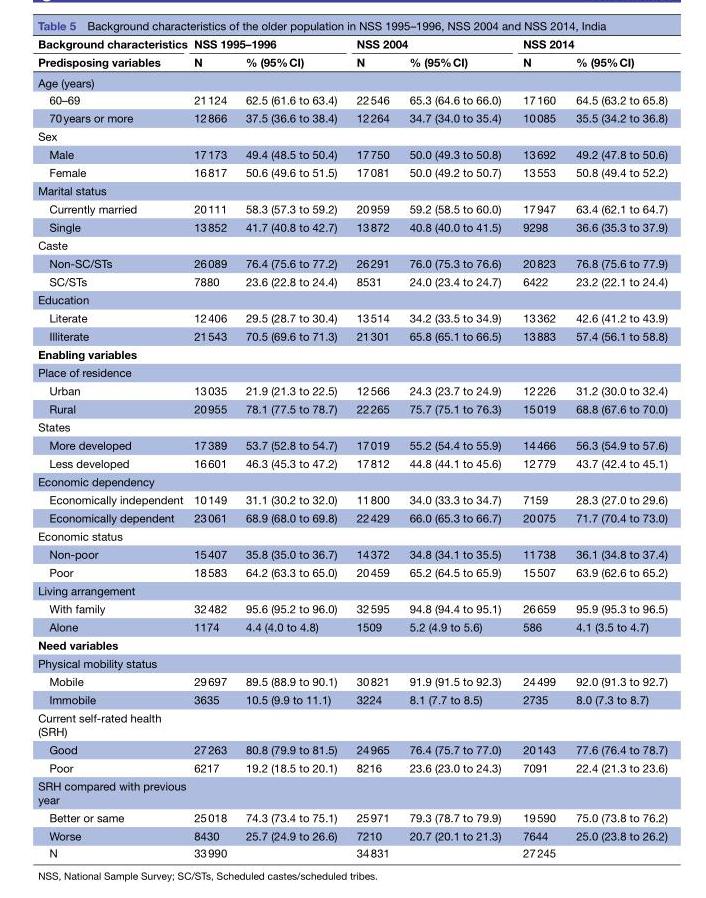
<table><thead><tr><td rowspan="2">Background characteristics Predisposing variables</td><td colspan="2">NSS 1995–1996</td><td colspan="2">NSS 2004</td><td colspan="2">NSS 2014</td></tr><tr><td>N</td><td>% (95% CI)</td><td>N</td><td>% (95% CI)</td><td>N</td><td>% (95% CI)</td></tr></thead><tbody><tr><td colspan="7">Age (years)</td></tr><tr><td>60–69</td><td>21 124</td><td>62.5 (61.6 to 63.4)</td><td>22 546</td><td>65.3 (64.6 to 66.0)</td><td>17 160</td><td>64.5 (63.2 to 65.8)</td></tr><tr><td>70 years or more</td><td>12 866</td><td>37.5 (36.6 to 38.4)</td><td>12 264</td><td>34.7 (34.0 to 35.4)</td><td>10 085</td><td>35.5 (34.2 to 36.8)</td></tr><tr><td colspan="7">Sex</td></tr><tr><td>Male</td><td>17 173</td><td>49.4 (48.5 to 50.4)</td><td>17 750</td><td>50.0 (49.3 to 50.8)</td><td>13 692</td><td>49.2 (47.8 to 50.6)</td></tr><tr><td>Female</td><td>16 817</td><td>50.6 (49.6 to 51.5)</td><td>17 081</td><td>50.0 (49.2 to 50.7)</td><td>13 553</td><td>50.8 (49.4 to 52.2)</td></tr><tr><td colspan="7">Marital status</td></tr><tr><td>Currently married</td><td>20 111</td><td>58.3 (57.3 to 59.2)</td><td>20 959</td><td>59.2 (58.5 to 60.0)</td><td>17 947</td><td>63.4 (62.1 to 64.7)</td></tr><tr><td>Single</td><td>13 852</td><td>41.7 (40.8 to 42.7)</td><td>13 872</td><td>40.8 (40.0 to 41.5)</td><td>9298</td><td>36.6 (35.3 to 37.9)</td></tr><tr><td colspan="7">Caste</td></tr><tr><td>Non-SC/STs</td><td>26 089</td><td>76.4 (75.6 to 77.2)</td><td>26 291</td><td>76.0 (75.3 to 76.6)</td><td>20 823</td><td>76.8 (75.6 to 77.9)</td></tr><tr><td>SC/STs</td><td>7880</td><td>23.6 (22.8 to 24.4)</td><td>8531</td><td>24.0 (23.4 to 24.7)</td><td>6422</td><td>23.2 (22.1 to 24.4)</td></tr><tr><td colspan="7">Education</td></tr><tr><td>Literate</td><td>12 406</td><td>29.5 (28.7 to 30.4)</td><td>13 514</td><td>34.2 (33.5 to 34.9)</td><td>13 362</td><td>42.6 (41.2 to 43.9)</td></tr><tr><td>Illiterate</td><td>21 543</td><td>70.5 (69.6 to 71.3)</td><td>21 301</td><td>65.8 (65.1 to 66.5)</td><td>13 883</td><td>57.4 (56.1 to 58.8)</td></tr><tr><td colspan="7">Enabling variables</td></tr><tr><td colspan="7">Place of residence</td></tr><tr><td>Urban</td><td>13 035</td><td>21.9 (21.3 to 22.5)</td><td>12 566</td><td>24.3 (23.7 to 24.9)</td><td>12 226</td><td>31.2 (30.0 to 32.4)</td></tr><tr><td>Rural</td><td>20 955</td><td>78.1 (77.5 to 78.7)</td><td>22 265</td><td>75.7 (75.1 to 76.3)</td><td>15 019</td><td>68.8 (67.6 to 70.0)</td></tr><tr><td colspan="7">States</td></tr><tr><td>More developed</td><td>17 389</td><td>53.7 (52.8 to 54.7)</td><td>17 019</td><td>55.2 (54.4 to 55.9)</td><td>14 466</td><td>56.3 (54.9 to 57.6)</td></tr><tr><td>Less developed</td><td>16 601</td><td>46.3 (45.3 to 47.2)</td><td>17 812</td><td>44.8 (44.1 to 45.6)</td><td>12 779</td><td>43.7 (42.4 to 45.1)</td></tr><tr><td colspan="7">Economic dependency</td></tr><tr><td>Economically independent</td><td>10 149</td><td>31.1 (30.2 to 32.0)</td><td>11 800</td><td>34.0 (33.3 to 34.7)</td><td>7159</td><td>28.3 (27.0 to 29.6)</td></tr><tr><td>Economically dependent</td><td>23 061</td><td>68.9 (68.0 to 69.8)</td><td>22 429</td><td>66.0 (65.3 to 66.7)</td><td>20 075</td><td>71.7 (70.4 to 73.0)</td></tr><tr><td colspan="7">Economic status</td></tr><tr><td>Non-poor</td><td>15 407</td><td>35.8 (35.0 to 36.7)</td><td>14 372</td><td>34.8 (34.1 to 35.5)</td><td>11 738</td><td>36.1 (34.8 to 37.4)</td></tr><tr><td>Poor</td><td>18 583</td><td>64.2 (63.3 to 65.0)</td><td>20 459</td><td>65.2 (64.5 to 65.9)</td><td>15 507</td><td>63.9 (62.6 to 65.2)</td></tr><tr><td colspan="7">Living arrangement</td></tr><tr><td>With family</td><td>32 482</td><td>95.6 (95.2 to 96.0)</td><td>32 595</td><td>94.8 (94.4 to 95.1)</td><td>26 659</td><td>95.9 (95.3 to 96.5)</td></tr><tr><td>Alone</td><td>1174</td><td>4.4 (4.0 to 4.8)</td><td>1509</td><td>5.2 (4.9 to 5.6)</td><td>586</td><td>4.1 (3.5 to 4.7)</td></tr><tr><td colspan="7">Need variables</td></tr><tr><td colspan="7">Physical mobility status</td></tr><tr><td>Mobile</td><td>29 697</td><td>89.5 (88.9 to 90.1)</td><td>30 821</td><td>91.9 (91.5 to 92.3)</td><td>24 499</td><td>92.0 (91.3 to 92.7)</td></tr><tr><td>Immobile</td><td>3635</td><td>10.5 (9.9 to 11.1)</td><td>3224</td><td>8.1 (7.7 to 8.5)</td><td>2735</td><td>8.0 (7.3 to 8.7)</td></tr><tr><td colspan="7">Current self-rated health (SRH)</td></tr><tr><td>Good</td><td>27 263</td><td>80.8 (79.9 to 81.5)</td><td>24 965</td><td>76.4 (75.7 to 77.0)</td><td>20 143</td><td>77.6 (76.4 to 78.7)</td></tr><tr><td>Poor</td><td>6217</td><td>19.2 (18.5 to 20.1)</td><td>8216</td><td>23.6 (23.0 to 24.3)</td><td>7091</td><td>22.4 (21.3 to 23.6)</td></tr><tr><td colspan="7">SRH compared with previous year</td></tr><tr><td>Better or same</td><td>25 018</td><td>74.3 (73.4 to 75.1)</td><td>25 971</td><td>79.3 (78.7 to 79.9)</td><td>19 590</td><td>75.0 (73.8 to 76.2)</td></tr><tr><td>Worse</td><td>8430</td><td>25.7 (24.9 to 26.6)</td><td>7210</td><td>20.7 (20.1 to 21.3)</td><td>7644</td><td>25.0 (23.8 to 26.2)</td></tr><tr><td>N</td><td>33 990</td><td></td><td>34 831</td><td></td><td>27 245</td><td></td></tr></tbody></table>